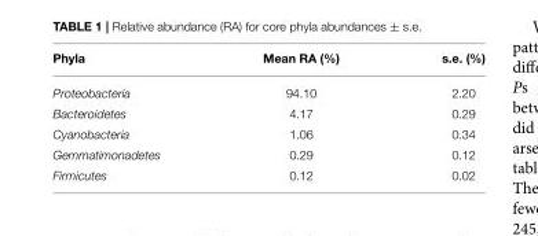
<table><thead><tr><td>Phyla</td><td>Mean RA (%)</td><td>s.e. (%)</td></tr></thead><tbody><tr><td>Proteobacteria</td><td>94.10</td><td>2.20</td></tr><tr><td>Bacteroidetes</td><td>4.17</td><td>0.29</td></tr><tr><td>Cyanobacteria</td><td>1.06</td><td>0.34</td></tr><tr><td>Gemmatimonadetes</td><td>0.29</td><td>0.12</td></tr><tr><td>Firmicutes</td><td>0.12</td><td>0.02</td></tr></tbody></table>